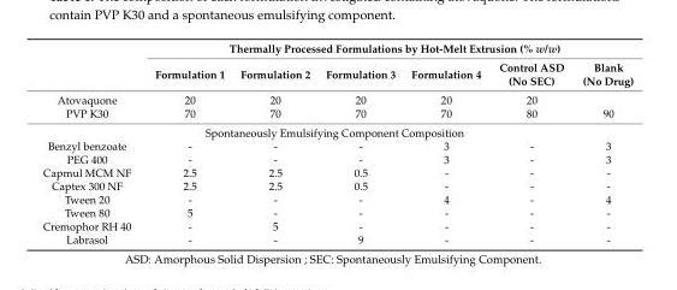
<table><thead><tr><td rowspan="2"></td><td colspan="6">Thermally Processed Formulations by Hot-Melt Extrusion (% w/w)</td></tr><tr><td>Formulation 1</td><td>Formulation 2</td><td>Formulation 3</td><td>Formulation 4</td><td>Control ASD (No SEC)</td><td>Blank (No Drug)</td></tr></thead><tbody><tr><td>Atovaquone</td><td>20</td><td>20</td><td>20</td><td>20</td><td>20</td><td></td></tr><tr><td>PVP K30</td><td>70</td><td>70</td><td>70</td><td>70</td><td>80</td><td>90</td></tr><tr><td colspan="7">Spontaneously Emulsifying Component Composition</td></tr><tr><td>Benzyl benzoate</td><td>-</td><td>-</td><td>-</td><td>3</td><td>-</td><td>3</td></tr><tr><td>PEG 400</td><td>-</td><td>-</td><td>-</td><td>3</td><td>-</td><td>3</td></tr><tr><td>Capmul MCM NF</td><td>2.5</td><td>2.5</td><td>0.5</td><td>-</td><td>-</td><td>-</td></tr><tr><td>Captex 300 NF</td><td>2.5</td><td>2.5</td><td>0.5</td><td>-</td><td>-</td><td>-</td></tr><tr><td>Tween 20</td><td>-</td><td>-</td><td>-</td><td>4</td><td>-</td><td>4</td></tr><tr><td>Tween 80</td><td>5</td><td>-</td><td>-</td><td>-</td><td>-</td><td>-</td></tr><tr><td>Cremophor RH 40</td><td>-</td><td>5</td><td>-</td><td>-</td><td>-</td><td>-</td></tr><tr><td>Labrasol</td><td>-</td><td>-</td><td>9</td><td>-</td><td>-</td><td>-</td></tr></tbody></table>